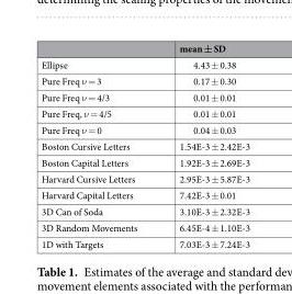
<table><thead><tr><td></td><td>mean ± SD</td></tr></thead><tbody><tr><td>Ellipse</td><td>4.43 ± 0.38</td></tr><tr><td>Pure Freq ν = 3</td><td>0.17 ± 0.30</td></tr><tr><td>Pure Freq ν = 4/3</td><td>0.01 ± 0.01</td></tr><tr><td>Pure Freq, ν = 4/5</td><td>0.01 ± 0.01</td></tr><tr><td>Pure Freq ν = 0</td><td>0.04 ± 0.03</td></tr><tr><td>Boston Cursive Letters</td><td>1.54E-3 ± 2.42E-3</td></tr><tr><td>Boston Capital Letters</td><td>1.92E-3 ± 2.69E-3</td></tr><tr><td>Harvard Cursive Letters</td><td>2.95E-3 ± 5.87E-3</td></tr><tr><td>Harvard Capital Letters</td><td>7.42E-3 ± 0.01</td></tr><tr><td>3D Can of Soda</td><td>3.10E-3 ± 2.32E-3</td></tr><tr><td>3D Random Movements</td><td>6.45E-4 ± 1.10E-3</td></tr><tr><td>1D with Targets</td><td>7.03E-3 ± 7.24E-3</td></tr></tbody></table>